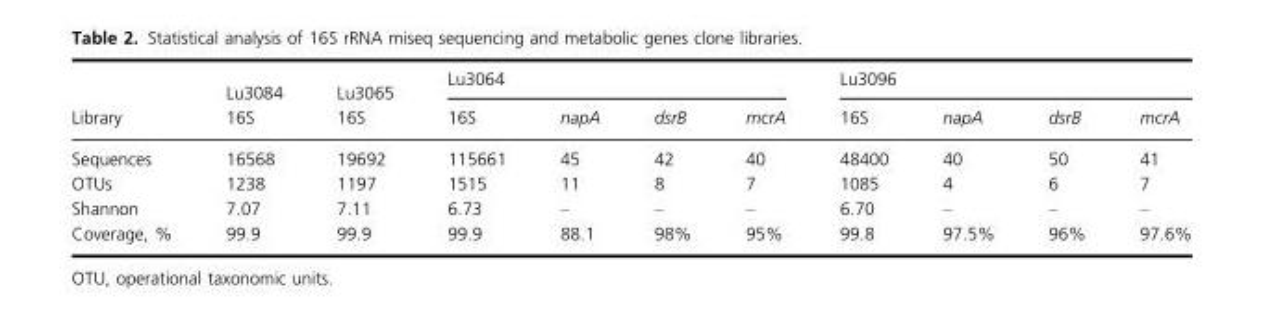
<table><thead><tr><td rowspan="2">Library</td><td rowspan="2">Lu3084 16S</td><td rowspan="2">Lu3065 16S</td><td colspan="4">Lu3064</td><td colspan="4">Lu3096</td></tr><tr><td>16S</td><td>napA</td><td>dsrB</td><td>mcrA</td><td>16S</td><td>napA</td><td>dsrB</td><td>mcrA</td></tr></thead><tbody><tr><td>Sequences</td><td>16568</td><td>19692</td><td>115661</td><td>45</td><td>42</td><td>40</td><td>48400</td><td>40</td><td>50</td><td>41</td></tr><tr><td>OTUs</td><td>1238</td><td>1197</td><td>1515</td><td>11</td><td>8</td><td>7</td><td>1085</td><td>4</td><td>6</td><td>7</td></tr><tr><td>Shannon</td><td>7.07</td><td>7.11</td><td>6.73</td><td>–</td><td>–</td><td>–</td><td>6.70</td><td>–</td><td>–</td><td>–</td></tr><tr><td>Coverage, %</td><td>99.9</td><td>99.9</td><td>99.9</td><td>88.1</td><td>98%</td><td>95%</td><td>99.8</td><td>97.5%</td><td>96%</td><td>97.6%</td></tr></tbody></table>